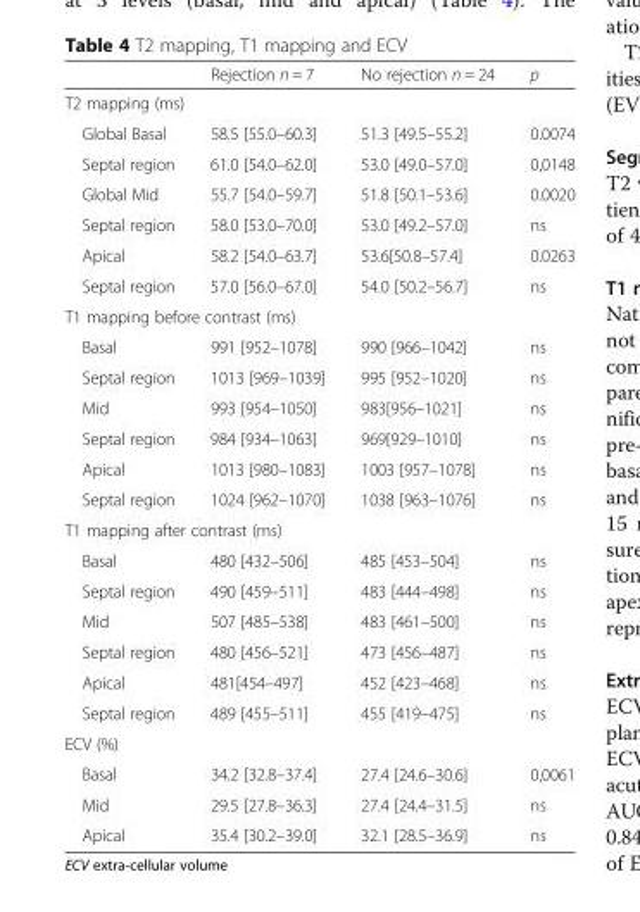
<table><thead><tr><td></td><td>Rejection n = 7</td><td>No rejection n = 24</td><td>p</td></tr></thead><tbody><tr><td colspan="4">T2 mapping (ms)</td></tr><tr><td>Global Basal</td><td>58.5 [55.0–60.3]</td><td>51.3 [49.5–55.2]</td><td>0.0074</td></tr><tr><td>Septal region</td><td>61.0 [54.0–62.0]</td><td>53.0 [49.0–57.0]</td><td>0,0148</td></tr><tr><td>Global Mid</td><td>55.7 [54.0–59.7]</td><td>51.8 [50.1–53.6]</td><td>0.0020</td></tr><tr><td>Septal region</td><td>58.0 [53.0–70.0]</td><td>53.0 [49.2–57.0]</td><td>ns</td></tr><tr><td>Apical</td><td>58.2 [54.0–63.7]</td><td>53.6[50.8–57.4]</td><td>0.0263</td></tr><tr><td>Septal region</td><td>57.0 [56.0–67.0]</td><td>54.0 [50.2–56.7]</td><td>ns</td></tr><tr><td colspan="4">T1 mapping before contrast (ms)</td></tr><tr><td>Basal</td><td>991 [952–1078]</td><td>990 [966–1042]</td><td>ns</td></tr><tr><td>Septal region</td><td>1013 [969–1039]</td><td>995 [952–1020]</td><td>ns</td></tr><tr><td>Mid</td><td>993 [954–1050]</td><td>983[956–1021]</td><td>ns</td></tr><tr><td>Septal region</td><td>984 [934–1063]</td><td>969[929–1010]</td><td>ns</td></tr><tr><td>Apical</td><td>1013 [980–1083]</td><td>1003 [957–1078]</td><td>ns</td></tr><tr><td>Septal region</td><td>1024 [962–1070]</td><td>1038 [963–1076]</td><td>ns</td></tr><tr><td colspan="4">T1 mapping after contrast (ms)</td></tr><tr><td>Basal</td><td>480 [432–506]</td><td>485 [453–504]</td><td>ns</td></tr><tr><td>Septal region</td><td>490 [459–511]</td><td>483 [444–498]</td><td>ns</td></tr><tr><td>Mid</td><td>507 [485–538]</td><td>483 [461–500]</td><td>ns</td></tr><tr><td>Septal region</td><td>480 [456–521]</td><td>473 [456–487]</td><td>ns</td></tr><tr><td>Apical</td><td>481[454–497]</td><td>452 [423–468]</td><td>ns</td></tr><tr><td>Septal region</td><td>489 [455–511]</td><td>455 [419–475]</td><td>ns</td></tr><tr><td colspan="4">ECV (%)</td></tr><tr><td>Basal</td><td>34.2 [32.8–37.4]</td><td>27.4 [24.6–30.6]</td><td>0,0061</td></tr><tr><td>Mid</td><td>29.5 [27.8–36.3]</td><td>27.4 [24.4–31.5]</td><td>ns</td></tr><tr><td>Apical</td><td>35.4 [30.2–39.0]</td><td>32.1 [28.5–36.9]</td><td>ns</td></tr></tbody></table>